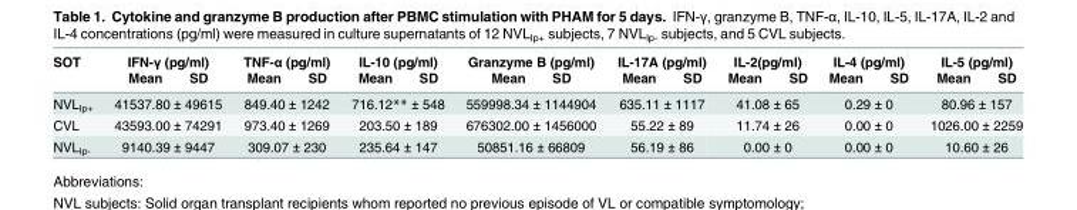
<table><thead><tr><td rowspan="2">SOT</td><td rowspan="2">IFN-γ (pg/ml) Mean SD</td><td rowspan="2">TNF-α (pg/ml) Mean SD</td><td rowspan="2">IL-10 (pg/ml) Mean SD</td><td rowspan="2">Granzyme B (pg/ml) Mean SD</td><td rowspan="2">IL-17A (pg/ml) Mean SD</td><td rowspan="2">IL-2(pg/ml) Mean SD</td><td rowspan="2">IL-4 (pg/ml) Mean SD</td><td rowspan="2">IL-5 (pg/ml) Mean SD</td></tr><tr></tr></thead><tbody><tr><td>NVL<sub>lp+</sub></td><td>41537.80 ± 49615</td><td>849.40 ± 1242</td><td>716.12** ± 548</td><td>559998.34 ± 1144904</td><td>635.11 ± 1117</td><td>41.08 ± 65</td><td>0.29 ± 0</td><td>80.96 ± 157</td></tr><tr><td>CVL</td><td>43593.00 ± 74291</td><td>973.40 ± 1269</td><td>203.50 ± 189</td><td>676302.00 ± 1456000</td><td>55.22 ± 89</td><td>11.74 ± 26</td><td>0.00 ± 0</td><td>1026.00 ± 2259</td></tr><tr><td>NVL<sub>lp-</sub></td><td>9140.39 ± 9447</td><td>309.07 ± 230</td><td>235.64 ± 147</td><td>50851.16 ± 66809</td><td>56.19 ± 86</td><td>0.00 ± 0</td><td>0.00 ± 0</td><td>10.60 ± 26</td></tr></tbody></table>